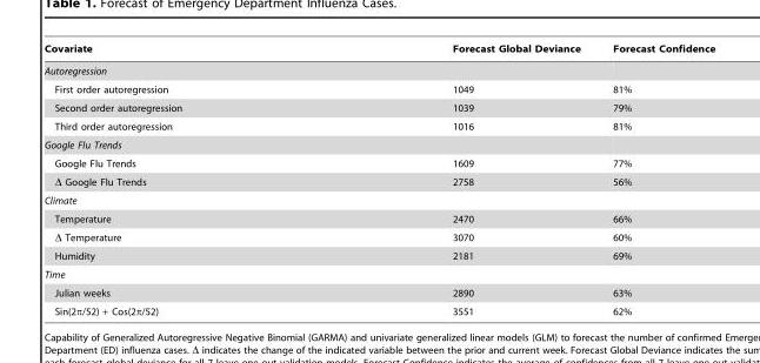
<table><thead><tr><td>Covariate</td><td>Forecast Global Deviance</td><td>Forecast Confidence</td></tr></thead><tbody><tr><td colspan="3">Autoregression</td></tr><tr><td>First order autoregression</td><td>1049</td><td>81%</td></tr><tr><td>Second order autoregression</td><td>1039</td><td>79%</td></tr><tr><td>Third order autoregression</td><td>1016</td><td>81%</td></tr><tr><td colspan="3">Google Flu Trends</td></tr><tr><td>Google Flu Trends</td><td>1609</td><td>77%</td></tr><tr><td>Δ Google Flu Trends</td><td>2758</td><td>56%</td></tr><tr><td colspan="3">Climate</td></tr><tr><td>Temperature</td><td>2470</td><td>66%</td></tr><tr><td>Δ Temperature</td><td>3070</td><td>60%</td></tr><tr><td>Humidity</td><td>2181</td><td>69%</td></tr><tr><td colspan="3">Time</td></tr><tr><td>Julian weeks</td><td>2890</td><td>63%</td></tr><tr><td>Sin(2π/52) + Cos(2π/52)</td><td>3551</td><td>62%</td></tr></tbody></table>